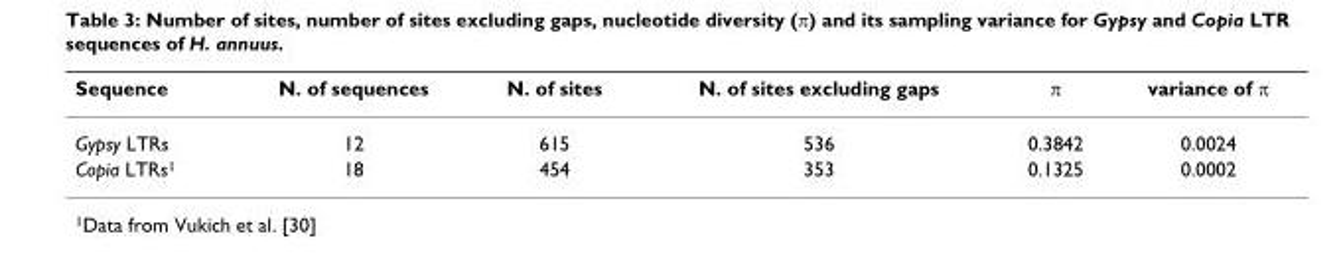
<table><thead><tr><td>Sequence</td><td>N. of sequences</td><td>N. of sites</td><td>N. of sites excluding gaps</td><td>π</td><td>variance of π</td></tr></thead><tbody><tr><td>Gypsy LTRs</td><td>12</td><td>615</td><td>536</td><td>0.3842</td><td>0.0024</td></tr><tr><td>Copia LTRs<sup>1</sup></td><td>18</td><td>454</td><td>353</td><td>0.1325</td><td>0.0002</td></tr></tbody></table>